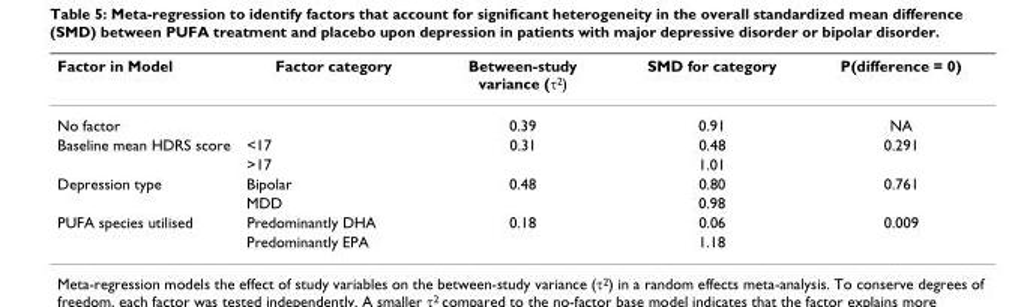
<table><thead><tr><td>Factor in Model</td><td>Factor category</td><td>Between-study variance (τ<sup>2</sup>)</td><td>SMD for category</td><td>P(difference = 0)</td></tr></thead><tbody><tr><td>No factor</td><td></td><td>0.39</td><td>0.91</td><td>NA</td></tr><tr><td rowspan="2">Baseline mean HDRS score</td><td>&lt;17</td><td>0.31</td><td>0.48</td><td>0.291</td></tr><tr><td>&gt;17</td><td></td><td>1.01</td><td></td></tr><tr><td rowspan="2">Depression type</td><td>Bipolar</td><td>0.48</td><td>0.80</td><td>0.761</td></tr><tr><td>MDD</td><td></td><td>0.98</td><td></td></tr><tr><td rowspan="2">PUFA species utilised</td><td>Predominantly DHA</td><td>0.18</td><td>0.06</td><td>0.009</td></tr><tr><td>Predominantly EPA</td><td></td><td>1.18</td><td></td></tr></tbody></table>